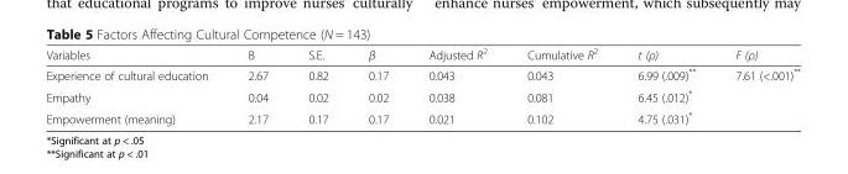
<table><thead><tr><td>Variables</td><td>B</td><td>S.E.</td><td>β</td><td>Adjusted R<sup>2</sup></td><td>Cumulative R<sup>2</sup></td><td>t (ρ)</td><td>F (ρ)</td></tr></thead><tbody><tr><td>Experience of cultural education</td><td>2.67</td><td>0.82</td><td>0.17</td><td>0.043</td><td>0.043</td><td>6.99 (.009)**</td><td rowspan="3">7.61 (&lt;.001)**</td></tr><tr><td>Empathy</td><td>0.04</td><td>0.02</td><td>0.02</td><td>0.038</td><td>0.081</td><td>6.45 (.012)*</td></tr><tr><td>Empowerment (meaning)</td><td>2.17</td><td>0.17</td><td>0.17</td><td>0.021</td><td>0.102</td><td>4.75 (.031)*</td></tr></tbody></table>